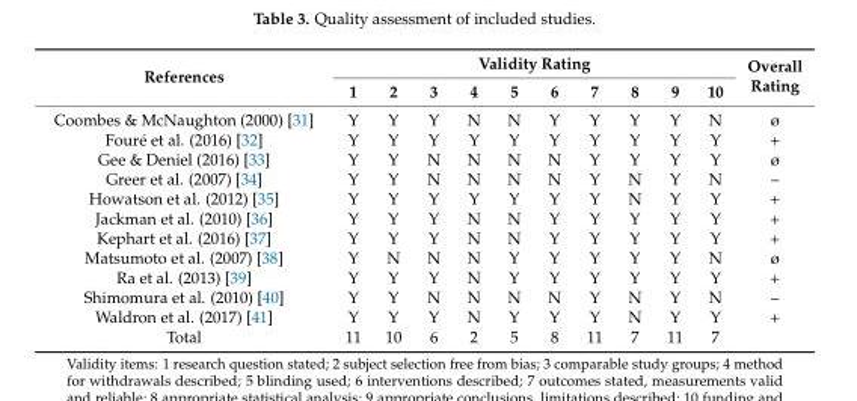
<table><thead><tr><td rowspan="2">References</td><td colspan="10">Validity Rating</td><td rowspan="2">Overall Rating</td></tr><tr><td>1</td><td>2</td><td>3</td><td>4</td><td>5</td><td>6</td><td>7</td><td>8</td><td>9</td><td>10</td></tr></thead><tbody><tr><td>Coombes &amp; McNaughton (2000) [31]</td><td>Y</td><td>Y</td><td>Y</td><td>N</td><td>N</td><td>Y</td><td>Y</td><td>Y</td><td>Y</td><td>N</td><td>ø</td></tr><tr><td>Fouré et al. (2016) [32]</td><td>Y</td><td>Y</td><td>Y</td><td>Y</td><td>Y</td><td>Y</td><td>Y</td><td>Y</td><td>Y</td><td>Y</td><td>+</td></tr><tr><td>Gee &amp; Deniel (2016) [33]</td><td>Y</td><td>Y</td><td>N</td><td>N</td><td>N</td><td>N</td><td>Y</td><td>Y</td><td>Y</td><td>Y</td><td>ø</td></tr><tr><td>Greer et al. (2007) [34]</td><td>Y</td><td>Y</td><td>N</td><td>N</td><td>N</td><td>N</td><td>Y</td><td>N</td><td>Y</td><td>N</td><td>–</td></tr><tr><td>Howatson et al. (2012) [35]</td><td>Y</td><td>Y</td><td>Y</td><td>Y</td><td>Y</td><td>Y</td><td>Y</td><td>N</td><td>Y</td><td>Y</td><td>+</td></tr><tr><td>Jackman et al. (2010) [36]</td><td>Y</td><td>Y</td><td>Y</td><td>N</td><td>N</td><td>Y</td><td>Y</td><td>Y</td><td>Y</td><td>Y</td><td>+</td></tr><tr><td>Kephart et al. (2016) [37]</td><td>Y</td><td>Y</td><td>Y</td><td>N</td><td>N</td><td>Y</td><td>Y</td><td>Y</td><td>Y</td><td>Y</td><td>+</td></tr><tr><td>Matsumoto et al. (2007) [38]</td><td>Y</td><td>N</td><td>N</td><td>N</td><td>Y</td><td>Y</td><td>Y</td><td>Y</td><td>Y</td><td>N</td><td>ø</td></tr><tr><td>Ra et al. (2013) [39]</td><td>Y</td><td>Y</td><td>Y</td><td>N</td><td>Y</td><td>Y</td><td>Y</td><td>Y</td><td>Y</td><td>Y</td><td>+</td></tr><tr><td>Shimomura et al. (2010) [40]</td><td>Y</td><td>Y</td><td>N</td><td>N</td><td>N</td><td>N</td><td>Y</td><td>N</td><td>Y</td><td>N</td><td>–</td></tr><tr><td>Waldron et al. (2017) [41]</td><td>Y</td><td>Y</td><td>Y</td><td>N</td><td>Y</td><td>Y</td><td>Y</td><td>N</td><td>Y</td><td>Y</td><td>+</td></tr><tr><td>Total</td><td>11</td><td>10</td><td>6</td><td>2</td><td>5</td><td>8</td><td>11</td><td>7</td><td>11</td><td>7</td><td></td></tr></tbody></table>